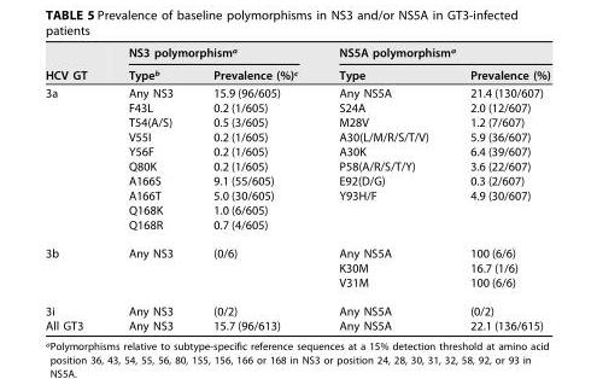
<table><thead><tr><td rowspan="2">HCV GT</td><td colspan="2">NS3 polymorphism<sup>a</sup></td><td colspan="2">NS5A polymorphism<sup>a</sup></td></tr><tr><td>Type<sup>b</sup></td><td>Prevalence (%)<sup>c</sup></td><td>Type</td><td>Prevalence (%)</td></tr></thead><tbody><tr><td rowspan="10">3a</td><td>Any NS3</td><td>15.9 (96/605)</td><td>Any NS5A</td><td>21.4 (130/607)</td></tr><tr><td>F43L</td><td>0.2 (1/605)</td><td>S24A</td><td>2.0 (12/607)</td></tr><tr><td>T54(A/S)</td><td>0.5 (3/605)</td><td>M28V</td><td>1.2 (7/607)</td></tr><tr><td>V55I</td><td>0.2 (1/605)</td><td>A30(L/M/R/S/T/V)</td><td>5.9 (36/607)</td></tr><tr><td>Y56F</td><td>0.2 (1/605)</td><td>A30K</td><td>6.4 (39/607)</td></tr><tr><td>Q80K</td><td>0.2 (1/605)</td><td>P58(A/R/S/T/Y)</td><td>3.6 (22/607)</td></tr><tr><td>A166S</td><td>9.1 (55/605)</td><td>E92(D/G)</td><td>0.3 (2/607)</td></tr><tr><td>A166T</td><td>5.0 (30/605)</td><td>Y93H/F</td><td>4.9 (30/607)</td></tr><tr><td>Q168K</td><td>1.0 (6/605)</td><td></td><td></td></tr><tr><td>Q168R</td><td>0.7 (4/605)</td><td></td><td></td></tr><tr><td rowspan="3">3b</td><td>Any NS3</td><td>(0/6)</td><td>Any NS5A</td><td>100 (6/6)</td></tr><tr><td></td><td></td><td>K30M</td><td>16.7 (1/6)</td></tr><tr><td></td><td></td><td>V31M</td><td>100 (6/6)</td></tr><tr><td>3i</td><td>Any NS3</td><td>(0/2)</td><td>Any NS5A</td><td>(0/2)</td></tr><tr><td>All GT3</td><td>Any NS3</td><td>15.7 (96/613)</td><td>Any NS5A</td><td>22.1 (136/615)</td></tr></tbody></table>